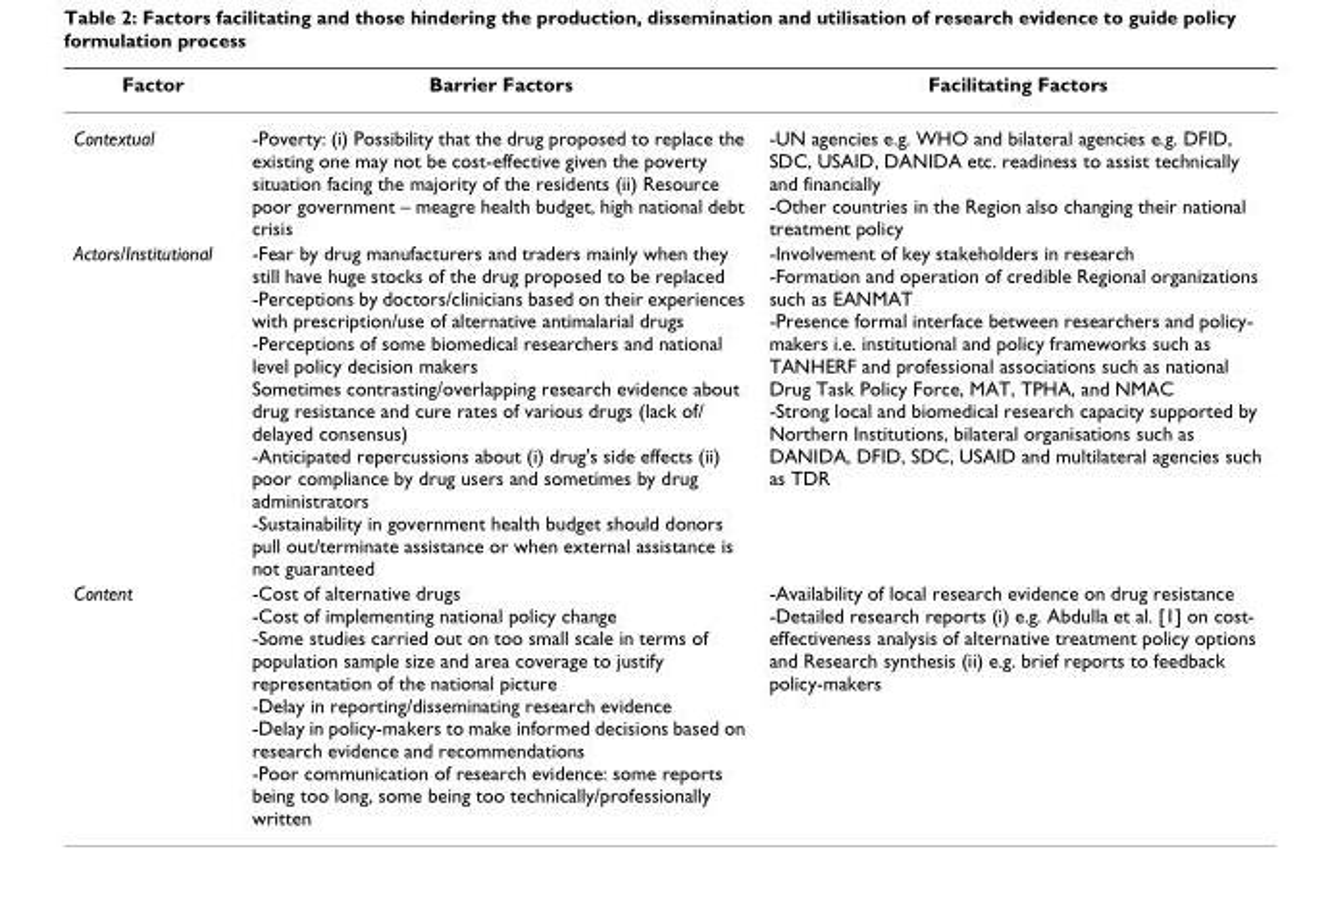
<table><thead><tr><td>Factor</td><td>Barrier Factors</td><td>Facilitating Factors</td></tr></thead><tbody><tr><td>Contextual</td><td>-Poverty: (i) Possibility that the drug proposed to replace the existing one may not be cost-effective given the poverty situation facing the majority of the residents (ii) Resource poor government – meagre health budget, high national debt crisis</td><td>-UN agencies e.g. WHO and bilateral agencies e.g. DFID, SDC, USAID, DANIDA etc. readiness to assist technically and financially -Other countries in the Region also changing their national treatment policy</td></tr><tr><td>Actors/Institutional</td><td>-Fear by drug manufacturers and traders mainly when they still have huge stocks of the drug proposed to be replaced -Perceptions by doctors/clinicians based on their experiences with prescription/use of alternative antimalarial drugs -Perceptions of some biomedical researchers and national level policy decision makers Sometimes contrasting/overlapping research evidence about drug resistance and cure rates of various drugs (lack of/ delayed consensus) -Anticipated repercussions about (i) drug&#x27;s side effects (ii) poor compliance by drug users and sometimes by drug administrators -Sustainability in government health budget should donors pull out/terminate assistance or when external assistance is not guaranteed</td><td>-Involvement of key stakeholders in research -Formation and operation of credible Regional organizations such as EANMAT -Presence formal interface between researchers and policy- makers i.e. institutional and policy frameworks such as TANHERF and professional associations such as national Drug Task Policy Force, MAT, TPHA, and NMAC -Strong local and biomedical research capacity supported by Northern Institutions, bilateral organisations such as DANIDA, DFID, SDC, USAID and multilateral agencies such as TDR</td></tr><tr><td>Content</td><td>-Cost of alternative drugs -Cost of implementing national policy change -Some studies carried out on too small scale in terms of population sample size and area coverage to justify representation of the national picture -Delay in reporting/disseminating research evidence -Delay in policy-makers to make informed decisions based on research evidence and recommendations -Poor communication of research evidence: some reports being too long, some being too technically/professionally written</td><td>-Availability of local research evidence on drug resistance -Detailed research reports (i) e.g. Abdulla et al. [1] on cost- effectiveness analysis of alternative treatment policy options and Research synthesis (ii) e.g. brief reports to feedback policy-makers</td></tr></tbody></table>